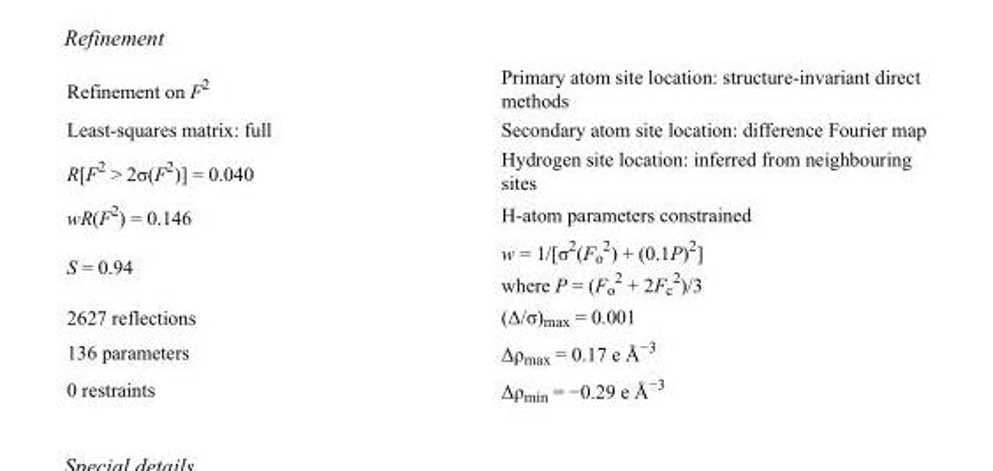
<table><tbody><tr><td>Refinement on F<sup>2</sup></td><td>Primary atom site location: structure-invariant direct methods</td></tr><tr><td>Least-squares matrix: full</td><td>Secondary atom site location: difference Fourier map</td></tr><tr><td>R[F<sup>2</sup> &gt; 2σ(F<sup>2</sup>)] = 0.040</td><td>Hydrogen site location: inferred from neighbouring sites</td></tr><tr><td>wR(F<sup>2</sup>) = 0.146</td><td>H-atom parameters constrained</td></tr><tr><td>S = 0.94</td><td>w = 1/[σ<sup>2</sup>(F<sub>o</sub> <sup>2</sup>) + (0.1P)<sup>2</sup>] where P = (F<sub>o</sub> <sup>2</sup> + 2F<sub>c</sub> <sup>2</sup>)/3</td></tr><tr><td>2627 reflections</td><td>(Δ/σ)<sub>max</sub> = 0.001</td></tr><tr><td>136 parameters</td><td>Δρ<sub>max</sub> = 0.17 e Å<sup>−3</sup></td></tr><tr><td>0 restraints</td><td>Δρ<sub>min</sub> = −0.29 e Å<sup>−3</sup></td></tr></tbody></table>